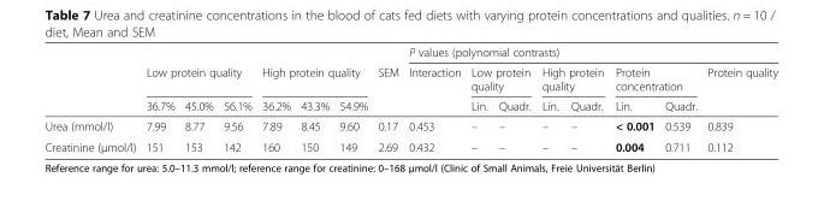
<table><thead><tr><td rowspan="3"></td><td></td><td></td><td></td><td></td><td></td><td></td><td rowspan="3">SEM</td><td colspan="8">P values (polynomial contrasts)</td></tr><tr><td colspan="3">Low protein quality</td><td colspan="3">High protein quality</td><td rowspan="2">Interaction</td><td colspan="2">Low protein quality</td><td colspan="2">High protein quality</td><td colspan="2">Protein concentration</td><td rowspan="2">Protein quality</td></tr><tr><td>36.7%</td><td>45.0%</td><td>56.1%</td><td>36.2%</td><td>43.3%</td><td>54.9%</td><td>Lin.</td><td>Quadr.</td><td>Lin.</td><td>Quadr.</td><td>Lin.</td><td>Quadr.</td></tr></thead><tbody><tr><td>Urea (mmol/l)</td><td>7.99</td><td>8.77</td><td>9.56</td><td>7.89</td><td>8.45</td><td>9.60</td><td>0.17</td><td>0.453</td><td>–</td><td>–</td><td>–</td><td>–</td><td>&lt; 0.001</td><td>0.539</td><td>0.839</td></tr><tr><td>Creatinine (μmol/l)</td><td>151</td><td>153</td><td>142</td><td>160</td><td>150</td><td>149</td><td>2.69</td><td>0.432</td><td>–</td><td>–</td><td>–</td><td>–</td><td>0.004</td><td>0.711</td><td>0.112</td></tr></tbody></table>